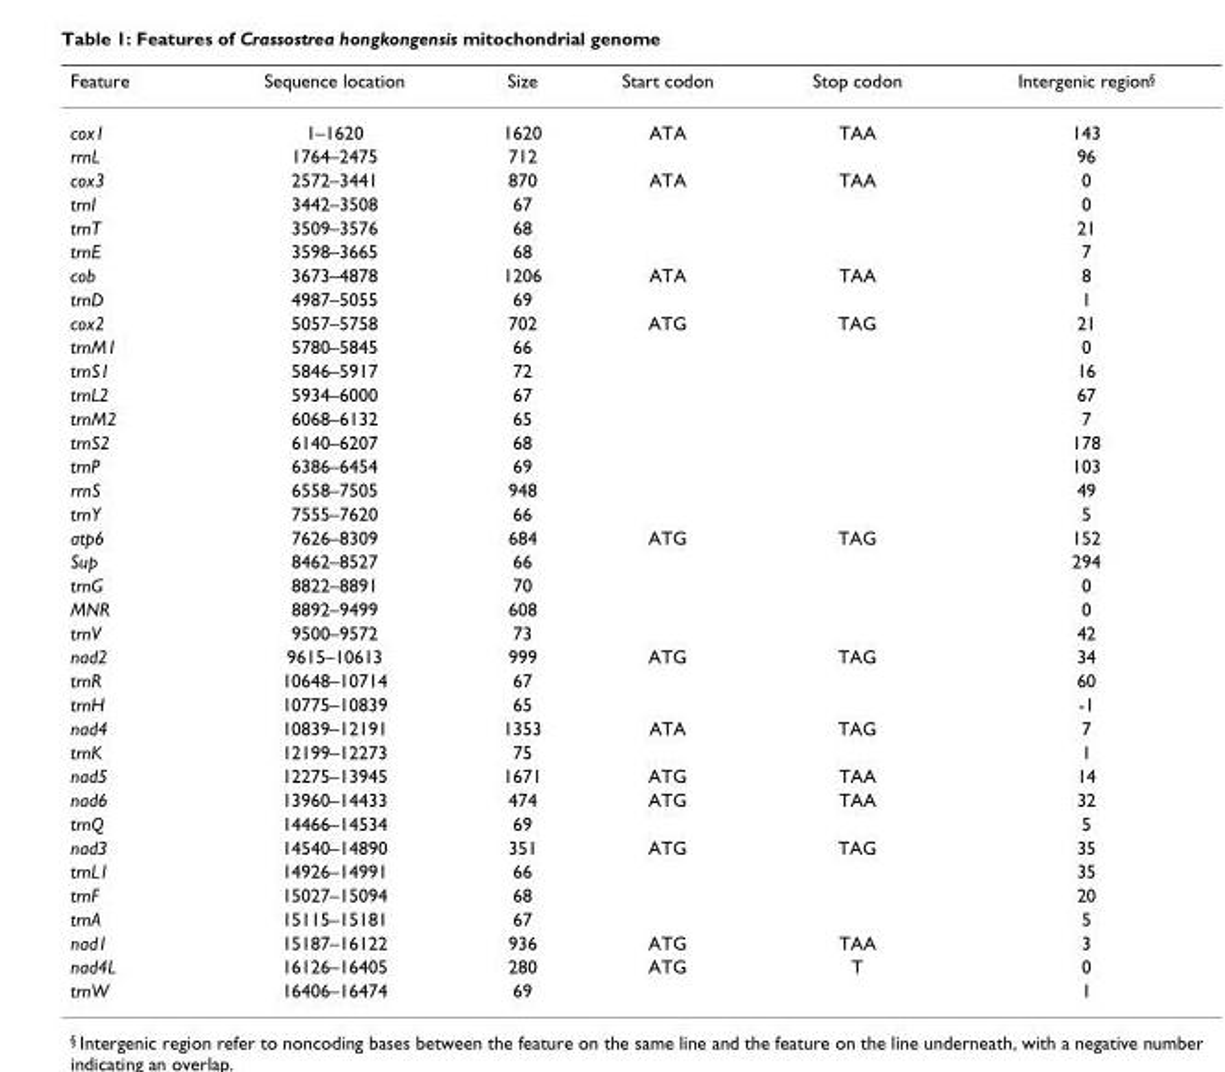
<table><thead><tr><td>Feature</td><td>Sequence location</td><td>Size</td><td>Start codon</td><td>Stop codon</td><td>Intergenic region<sup>§</sup></td></tr></thead><tbody><tr><td>cox1</td><td>1–1620</td><td>1620</td><td>ATA</td><td>TAA</td><td>143</td></tr><tr><td>rrnL</td><td>1764–2475</td><td>712</td><td></td><td></td><td>96</td></tr><tr><td>cox3</td><td>2572–3441</td><td>870</td><td>ATA</td><td>TAA</td><td>0</td></tr><tr><td>trnI</td><td>3442–3508</td><td>67</td><td></td><td></td><td>0</td></tr><tr><td>trnT</td><td>3509–3576</td><td>68</td><td></td><td></td><td>21</td></tr><tr><td>trnE</td><td>3598–3665</td><td>68</td><td></td><td></td><td>7</td></tr><tr><td>cob</td><td>3673–4878</td><td>1206</td><td>ATA</td><td>TAA</td><td>8</td></tr><tr><td>trnD</td><td>4987–5055</td><td>69</td><td></td><td></td><td>1</td></tr><tr><td>cox2</td><td>5057–5758</td><td>702</td><td>ATG</td><td>TAG</td><td>21</td></tr><tr><td>trnM1</td><td>5780–5845</td><td>66</td><td></td><td></td><td>0</td></tr><tr><td>trnS1</td><td>5846–5917</td><td>72</td><td></td><td></td><td>16</td></tr><tr><td>trnL2</td><td>5934–6000</td><td>67</td><td></td><td></td><td>67</td></tr><tr><td>trnM2</td><td>6068–6132</td><td>65</td><td></td><td></td><td>7</td></tr><tr><td>trnS2</td><td>6140–6207</td><td>68</td><td></td><td></td><td>178</td></tr><tr><td>trnP</td><td>6386–6454</td><td>69</td><td></td><td></td><td>103</td></tr><tr><td>rrnS</td><td>6558–7505</td><td>948</td><td></td><td></td><td>49</td></tr><tr><td>trnY</td><td>7555–7620</td><td>66</td><td></td><td></td><td>5</td></tr><tr><td>atp6</td><td>7626–8309</td><td>684</td><td>ATG</td><td>TAG</td><td>152</td></tr><tr><td>Sup</td><td>8462–8527</td><td>66</td><td></td><td></td><td>294</td></tr><tr><td>trnG</td><td>8822–8891</td><td>70</td><td></td><td></td><td>0</td></tr><tr><td>MNR</td><td>8892–9499</td><td>608</td><td></td><td></td><td>0</td></tr><tr><td>trnV</td><td>9500–9572</td><td>73</td><td></td><td></td><td>42</td></tr><tr><td>nad2</td><td>9615–10613</td><td>999</td><td>ATG</td><td>TAG</td><td>34</td></tr><tr><td>trnR</td><td>10648–10714</td><td>67</td><td></td><td></td><td>60</td></tr><tr><td>trnH</td><td>10775–10839</td><td>65</td><td></td><td></td><td>-1</td></tr><tr><td>nad4</td><td>10839–12191</td><td>1353</td><td>ATA</td><td>TAG</td><td>7</td></tr><tr><td>trnK</td><td>12199–12273</td><td>75</td><td></td><td></td><td>1</td></tr><tr><td>nad5</td><td>12275–13945</td><td>1671</td><td>ATG</td><td>TAA</td><td>14</td></tr><tr><td>nad6</td><td>13960–14433</td><td>474</td><td>ATG</td><td>TAA</td><td>32</td></tr><tr><td>trnQ</td><td>14466–14534</td><td>69</td><td></td><td></td><td>5</td></tr><tr><td>nad3</td><td>14540–14890</td><td>351</td><td>ATG</td><td>TAG</td><td>35</td></tr><tr><td>trnL1</td><td>14926–14991</td><td>66</td><td></td><td></td><td>35</td></tr><tr><td>trnF</td><td>15027–15094</td><td>68</td><td></td><td></td><td>20</td></tr><tr><td>trnA</td><td>15115–15181</td><td>67</td><td></td><td></td><td>5</td></tr><tr><td>nad1</td><td>15187–16122</td><td>936</td><td>ATG</td><td>TAA</td><td>3</td></tr><tr><td>nad4L</td><td>16126–16405</td><td>280</td><td>ATG</td><td>T</td><td>0</td></tr><tr><td>trnW</td><td>16406–16474</td><td>69</td><td></td><td></td><td>1</td></tr></tbody></table>